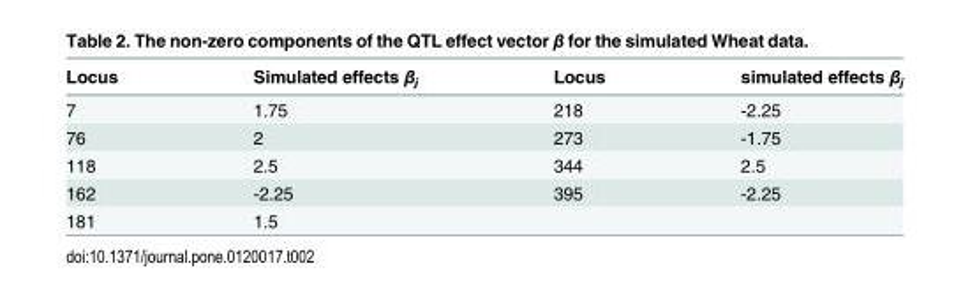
<table><thead><tr><td>Locus</td><td>Simulated effects β<sub>j</sub></td><td>Locus</td><td>simulated effects β<sub>j</sub></td></tr></thead><tbody><tr><td>7</td><td>1.75</td><td>218</td><td>-2.25</td></tr><tr><td>76</td><td>2</td><td>273</td><td>-1.75</td></tr><tr><td>118</td><td>2.5</td><td>344</td><td>2.5</td></tr><tr><td>162</td><td>-2.25</td><td>395</td><td>-2.25</td></tr><tr><td>181</td><td>1.5</td><td></td><td></td></tr></tbody></table>